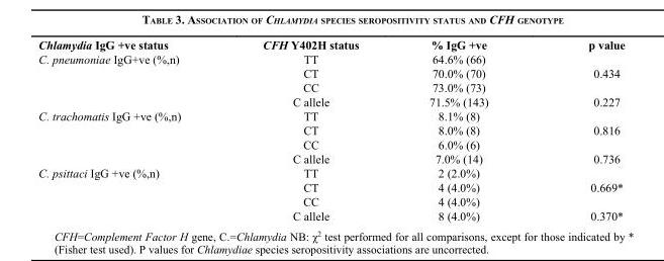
<table><thead><tr><td>Chlamydia IgG +ve status</td><td>CFH Y402H status</td><td>% IgG +ve</td><td>p value</td></tr></thead><tbody><tr><td rowspan="4">C. pneumoniae IgG+ve (%,n)</td><td>TT</td><td>64.6% (66)</td><td></td></tr><tr><td>CT</td><td>70.0% (70)</td><td>0.434</td></tr><tr><td>CC</td><td>73.0% (73)</td><td></td></tr><tr><td>C allele</td><td>71.5% (143)</td><td>0.227</td></tr><tr><td rowspan="4">C. trachomatis IgG +ve (%,n)</td><td>TT</td><td>8.1% (8)</td><td></td></tr><tr><td>CT</td><td>8.0% (8)</td><td>0.816</td></tr><tr><td>CC</td><td>6.0% (6)</td><td></td></tr><tr><td>C allele</td><td>7.0% (14)</td><td>0.736</td></tr><tr><td rowspan="4">C. psittaci IgG +ve (%,n)</td><td>TT</td><td>2 (2.0%)</td><td></td></tr><tr><td>CT</td><td>4 (4.0%)</td><td>0.669*</td></tr><tr><td>CC</td><td>4 (4.0%)</td><td></td></tr><tr><td>C allele</td><td>8 (4.0%)</td><td>0.370*</td></tr></tbody></table>